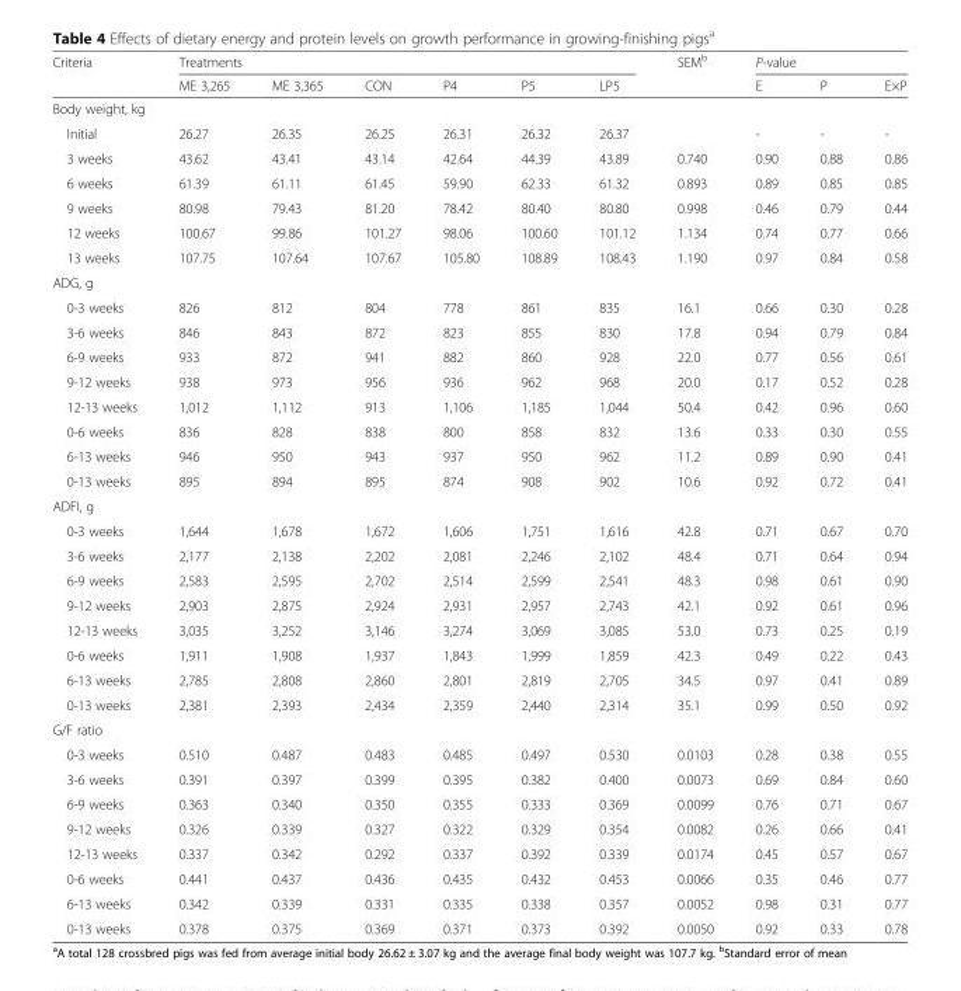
<table><thead><tr><td rowspan="2">Criteria</td><td colspan="6">Treatments</td><td rowspan="2">SEM<sup>b</sup></td><td colspan="3">P-value</td></tr><tr><td>ME 3,265</td><td>ME 3,365</td><td>CON</td><td>P4</td><td>P5</td><td>LP5</td><td>E</td><td>P</td><td>E×P</td></tr></thead><tbody><tr><td colspan="11">Body weight, kg</td></tr><tr><td>Initial</td><td>26.27</td><td>26.35</td><td>26.25</td><td>26.31</td><td>26.32</td><td>26.37</td><td></td><td>-</td><td>-</td><td>-</td></tr><tr><td>3 weeks</td><td>43.62</td><td>43.41</td><td>43.14</td><td>42.64</td><td>44.39</td><td>43.89</td><td>0.740</td><td>0.90</td><td>0.88</td><td>0.86</td></tr><tr><td>6 weeks</td><td>61.39</td><td>61.11</td><td>61.45</td><td>59.90</td><td>62.33</td><td>61.32</td><td>0.893</td><td>0.89</td><td>0.85</td><td>0.85</td></tr><tr><td>9 weeks</td><td>80.98</td><td>79.43</td><td>81.20</td><td>78.42</td><td>80.40</td><td>80.80</td><td>0.998</td><td>0.46</td><td>0.79</td><td>0.44</td></tr><tr><td>12 weeks</td><td>100.67</td><td>99.86</td><td>101.27</td><td>98.06</td><td>100.60</td><td>101.12</td><td>1.134</td><td>0.74</td><td>0.77</td><td>0.66</td></tr><tr><td>13 weeks</td><td>107.75</td><td>107.64</td><td>107.67</td><td>105.80</td><td>108.89</td><td>108.43</td><td>1.190</td><td>0.97</td><td>0.84</td><td>0.58</td></tr><tr><td colspan="11">ADG, g</td></tr><tr><td>0-3 weeks</td><td>826</td><td>812</td><td>804</td><td>778</td><td>861</td><td>835</td><td>16.1</td><td>0.66</td><td>0.30</td><td>0.28</td></tr><tr><td>3-6 weeks</td><td>846</td><td>843</td><td>872</td><td>823</td><td>855</td><td>830</td><td>17.8</td><td>0.94</td><td>0.79</td><td>0.84</td></tr><tr><td>6-9 weeks</td><td>933</td><td>872</td><td>941</td><td>882</td><td>860</td><td>928</td><td>22.0</td><td>0.77</td><td>0.56</td><td>0.61</td></tr><tr><td>9-12 weeks</td><td>938</td><td>973</td><td>956</td><td>936</td><td>962</td><td>968</td><td>20.0</td><td>0.17</td><td>0.52</td><td>0.28</td></tr><tr><td>12-13 weeks</td><td>1,012</td><td>1,112</td><td>913</td><td>1,106</td><td>1,185</td><td>1,044</td><td>50.4</td><td>0.42</td><td>0.96</td><td>0.60</td></tr><tr><td>0-6 weeks</td><td>836</td><td>828</td><td>838</td><td>800</td><td>858</td><td>832</td><td>13.6</td><td>0.33</td><td>0.30</td><td>0.55</td></tr><tr><td>6-13 weeks</td><td>946</td><td>950</td><td>943</td><td>937</td><td>950</td><td>962</td><td>11.2</td><td>0.89</td><td>0.90</td><td>0.41</td></tr><tr><td>0-13 weeks</td><td>895</td><td>894</td><td>895</td><td>874</td><td>908</td><td>902</td><td>10.6</td><td>0.92</td><td>0.72</td><td>0.41</td></tr><tr><td colspan="11">ADFI, g</td></tr><tr><td>0-3 weeks</td><td>1,644</td><td>1,678</td><td>1,672</td><td>1,606</td><td>1,751</td><td>1,616</td><td>42.8</td><td>0.71</td><td>0.67</td><td>0.70</td></tr><tr><td>3-6 weeks</td><td>2,177</td><td>2,138</td><td>2,202</td><td>2,081</td><td>2,246</td><td>2,102</td><td>48.4</td><td>0.71</td><td>0.64</td><td>0.94</td></tr><tr><td>6-9 weeks</td><td>2,583</td><td>2,595</td><td>2,702</td><td>2,514</td><td>2,599</td><td>2,541</td><td>48.3</td><td>0.98</td><td>0.61</td><td>0.90</td></tr><tr><td>9-12 weeks</td><td>2,903</td><td>2,875</td><td>2,924</td><td>2,931</td><td>2,957</td><td>2,743</td><td>42.1</td><td>0.92</td><td>0.61</td><td>0.96</td></tr><tr><td>12-13 weeks</td><td>3,035</td><td>3,252</td><td>3,146</td><td>3,274</td><td>3,069</td><td>3,085</td><td>53.0</td><td>0.73</td><td>0.25</td><td>0.19</td></tr><tr><td>0-6 weeks</td><td>1,911</td><td>1,908</td><td>1,937</td><td>1,843</td><td>1,999</td><td>1,859</td><td>42.3</td><td>0.49</td><td>0.22</td><td>0.43</td></tr><tr><td>6-13 weeks</td><td>2,785</td><td>2,808</td><td>2,860</td><td>2,801</td><td>2,819</td><td>2,705</td><td>34.5</td><td>0.97</td><td>0.41</td><td>0.89</td></tr><tr><td>0-13 weeks</td><td>2,381</td><td>2,393</td><td>2,434</td><td>2,359</td><td>2,440</td><td>2,314</td><td>35.1</td><td>0.99</td><td>0.50</td><td>0.92</td></tr><tr><td colspan="11">G/F ratio</td></tr><tr><td>0-3 weeks</td><td>0.510</td><td>0.487</td><td>0.483</td><td>0.485</td><td>0.497</td><td>0.530</td><td>0.0103</td><td>0.28</td><td>0.38</td><td>0.55</td></tr><tr><td>3-6 weeks</td><td>0.391</td><td>0.397</td><td>0.399</td><td>0.395</td><td>0.382</td><td>0.400</td><td>0.0073</td><td>0.69</td><td>0.84</td><td>0.60</td></tr><tr><td>6-9 weeks</td><td>0.363</td><td>0.340</td><td>0.350</td><td>0.355</td><td>0.333</td><td>0.369</td><td>0.0099</td><td>0.76</td><td>0.71</td><td>0.67</td></tr><tr><td>9-12 weeks</td><td>0.326</td><td>0.339</td><td>0.327</td><td>0.322</td><td>0.329</td><td>0.354</td><td>0.0082</td><td>0.26</td><td>0.66</td><td>0.41</td></tr><tr><td>12-13 weeks</td><td>0.337</td><td>0.342</td><td>0.292</td><td>0.337</td><td>0.392</td><td>0.339</td><td>0.0174</td><td>0.45</td><td>0.57</td><td>0.67</td></tr><tr><td>0-6 weeks</td><td>0.441</td><td>0.437</td><td>0.436</td><td>0.435</td><td>0.432</td><td>0.453</td><td>0.0066</td><td>0.35</td><td>0.46</td><td>0.77</td></tr><tr><td>6-13 weeks</td><td>0.342</td><td>0.339</td><td>0.331</td><td>0.335</td><td>0.338</td><td>0.357</td><td>0.0052</td><td>0.98</td><td>0.31</td><td>0.77</td></tr><tr><td>0-13 weeks</td><td>0.378</td><td>0.375</td><td>0.369</td><td>0.371</td><td>0.373</td><td>0.392</td><td>0.0050</td><td>0.92</td><td>0.33</td><td>0.78</td></tr></tbody></table>